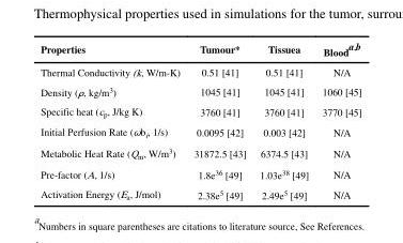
<table><thead><tr><td>Properties</td><td>Tumour*</td><td>Tissuea</td><td>Blood<sup>a,b</sup></td></tr></thead><tbody><tr><td>Thermal Conductivity (k, W/m-K)</td><td>0.51 [41]</td><td>0.51 [41]</td><td>N/A</td></tr><tr><td>Density (ρ, kg/m<sup>3</sup>)</td><td>1045 [41]</td><td>1045 [41]</td><td>1060 [45]</td></tr><tr><td>Specific heat (c<sub>p</sub>, J/kg K)</td><td>3760 [41]</td><td>3760 [41]</td><td>3770 [45]</td></tr><tr><td>Initial Perfusion Rate (ωb<sub>i</sub>, 1/s)</td><td>0.0095 [42]</td><td>0.003 [42]</td><td>N/A</td></tr><tr><td>Metabolic Heat Rate (Q<sub>m</sub>, W/m<sup>3</sup>)</td><td>31872.5 [43]</td><td>6374.5 [43]</td><td>N/A</td></tr><tr><td>Pre-factor (A, 1/s)</td><td>1.8e<sup>36</sup> [49]</td><td>1.03e<sup>38</sup> [49]</td><td>N/A</td></tr><tr><td>Activation Energy (E<sub>a</sub>, J/mol)</td><td>2.38e<sup>5</sup> [49]</td><td>2.49e<sup>5</sup> [49]</td><td>N/A</td></tr></tbody></table>